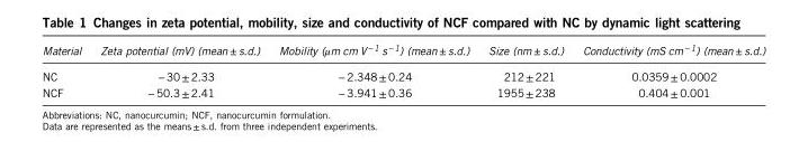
<table><thead><tr><td>Material</td><td>Zeta potential (mV) (mean ± s.d.)</td><td>Mobility (μm cm V<sup>− 1</sup> s <sup>−1</sup>) (mean ± s.d.)</td><td>Size (nm ± s.d.)</td><td>Conductivity (mS cm <sup>− 1</sup>) (mean ± s.d.)</td></tr></thead><tbody><tr><td>NC</td><td>− 30± 2.33</td><td>− 2.348± 0.24</td><td>212± 221</td><td>0.0359± 0.0002</td></tr><tr><td>NCF</td><td>− 50.3± 2.41</td><td>− 3.941± 0.36</td><td>1955± 238</td><td>0.404± 0.001</td></tr></tbody></table>